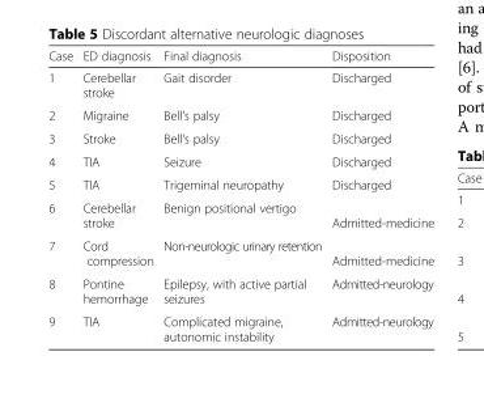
<table><thead><tr><td>Case</td><td>ED diagnosis</td><td>Final diagnosis</td><td>Disposition</td></tr></thead><tbody><tr><td>1</td><td>Cerebellar stroke</td><td>Gait disorder</td><td>Discharged</td></tr><tr><td>2</td><td>Migraine</td><td>Bell’s palsy</td><td>Discharged</td></tr><tr><td>3</td><td>Stroke</td><td>Bell’s palsy</td><td>Discharged</td></tr><tr><td>4</td><td>TIA</td><td>Seizure</td><td>Discharged</td></tr><tr><td>5</td><td>TIA</td><td>Trigeminal neuropathy</td><td>Discharged</td></tr><tr><td>6</td><td>Cerebellar stroke</td><td>Benign positional vertigo</td><td>Admitted-medicine</td></tr><tr><td>7</td><td>Cord compression</td><td>Non-neurologic urinary retention</td><td>Admitted-medicine</td></tr><tr><td>8</td><td>Pontine hemorrhage</td><td>Epilepsy, with active partial seizures</td><td>Admitted-neurology</td></tr><tr><td>9</td><td>TIA</td><td>Complicated migraine, autonomic instability</td><td>Admitted-neurology</td></tr></tbody></table>